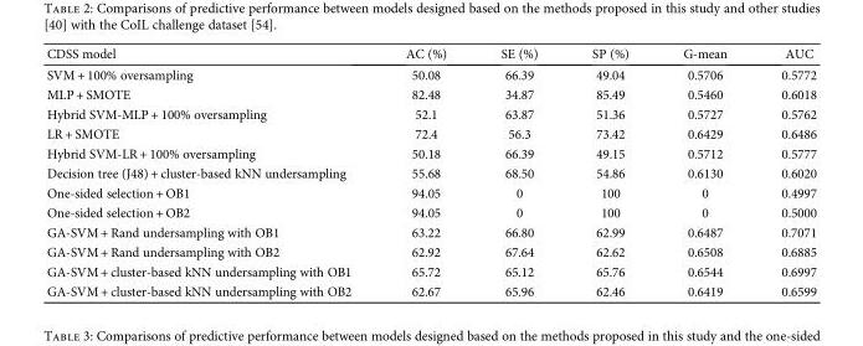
<table><thead><tr><td>CDSS model</td><td>AC (%)</td><td>SE (%)</td><td>SP (%)</td><td>G-mean</td><td>AUC</td></tr></thead><tbody><tr><td>SVM + 100% oversampling</td><td>50.08</td><td>66.39</td><td>49.04</td><td>0.5706</td><td>0.5772</td></tr><tr><td>MLP + SMOTE</td><td>82.48</td><td>34.87</td><td>85.49</td><td>0.5460</td><td>0.6018</td></tr><tr><td>Hybrid SVM-MLP + 100% oversampling</td><td>52.1</td><td>63.87</td><td>51.36</td><td>0.5727</td><td>0.5762</td></tr><tr><td>LR + SMOTE</td><td>72.4</td><td>56.3</td><td>73.42</td><td>0.6429</td><td>0.6486</td></tr><tr><td>Hybrid SVM-LR + 100% oversampling</td><td>50.18</td><td>66.39</td><td>49.15</td><td>0.5712</td><td>0.5777</td></tr><tr><td>Decision tree (J48) + cluster-based kNN undersampling</td><td>55.68</td><td>68.50</td><td>54.86</td><td>0.6130</td><td>0.6020</td></tr><tr><td>One-sided selection + OB1</td><td>94.05</td><td>0</td><td>100</td><td>0</td><td>0.4997</td></tr><tr><td>One-sided selection + OB2</td><td>94.05</td><td>0</td><td>100</td><td>0</td><td>0.5000</td></tr><tr><td>GA-SVM + Rand undersampling with OB1</td><td>63.22</td><td>66.80</td><td>62.99</td><td>0.6487</td><td>0.7071</td></tr><tr><td>GA-SVM + Rand undersampling with OB2</td><td>62.92</td><td>67.64</td><td>62.62</td><td>0.6508</td><td>0.6885</td></tr><tr><td>GA-SVM + cluster-based kNN undersampling with OB1</td><td>65.72</td><td>65.12</td><td>65.76</td><td>0.6544</td><td>0.6997</td></tr><tr><td>GA-SVM + cluster-based kNN undersampling with OB2</td><td>62.67</td><td>65.96</td><td>62.46</td><td>0.6419</td><td>0.6599</td></tr></tbody></table>